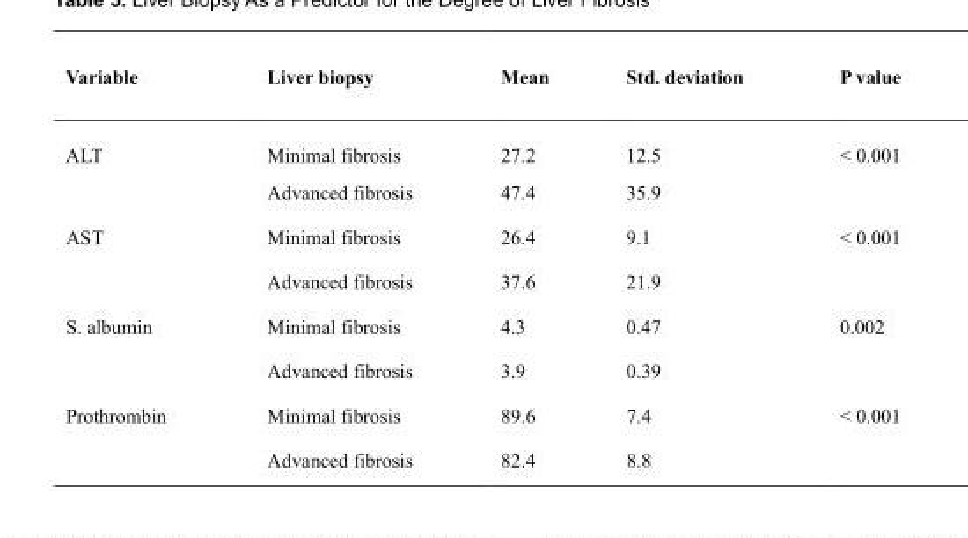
<table><thead><tr><td>Variable</td><td>Liver biopsy</td><td>Mean</td><td>Std. deviation</td><td>P value</td></tr></thead><tbody><tr><td rowspan="2">ALT</td><td>Minimal fibrosis</td><td>27.2</td><td>12.5</td><td rowspan="2">&lt; 0.001</td></tr><tr><td>Advanced fibrosis</td><td>47.4</td><td>35.9</td></tr><tr><td rowspan="2">AST</td><td>Minimal fibrosis</td><td>26.4</td><td>9.1</td><td rowspan="2">&lt; 0.001</td></tr><tr><td>Advanced fibrosis</td><td>37.6</td><td>21.9</td></tr><tr><td rowspan="2">S. albumin</td><td>Minimal fibrosis</td><td>4.3</td><td>0.47</td><td rowspan="2">0.002</td></tr><tr><td>Advanced fibrosis</td><td>3.9</td><td>0.39</td></tr><tr><td rowspan="2">Prothrombin</td><td>Minimal fibrosis</td><td>89.6</td><td>7.4</td><td rowspan="2">&lt; 0.001</td></tr><tr><td>Advanced fibrosis</td><td>82.4</td><td>8.8</td></tr></tbody></table>